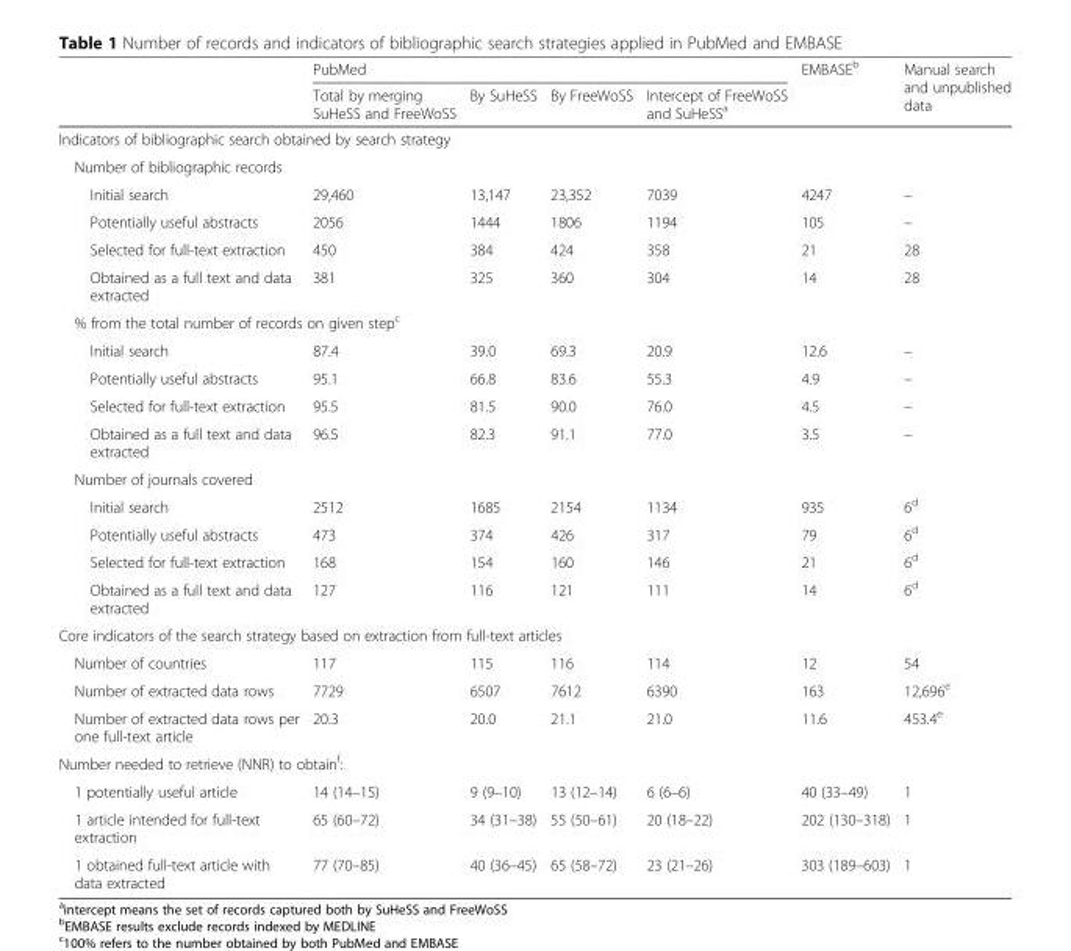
<table><thead><tr><td rowspan="2"></td><td colspan="4">PubMed</td><td rowspan="2">EMBASE<sup>b</sup></td><td rowspan="2">Manual search and unpublished data</td></tr><tr><td>Total by merging SuHeSS and FreeWoSS</td><td>By SuHeSS</td><td>By FreeWoSS</td><td>Intercept of FreeWoSS and SuHeSS<sup>a</sup></td></tr></thead><tbody><tr><td colspan="7">Indicators of bibliographic search obtained by search strategy</td></tr><tr><td colspan="7">Number of bibliographic records</td></tr><tr><td>Initial search</td><td>29,460</td><td>13,147</td><td>23,352</td><td>7039</td><td>4247</td><td>–</td></tr><tr><td>Potentially useful abstracts</td><td>2056</td><td>1444</td><td>1806</td><td>1194</td><td>105</td><td>–</td></tr><tr><td>Selected for full-text extraction</td><td>450</td><td>384</td><td>424</td><td>358</td><td>21</td><td>28</td></tr><tr><td>Obtained as a full text and data extracted</td><td>381</td><td>325</td><td>360</td><td>304</td><td>14</td><td>28</td></tr><tr><td colspan="7">% from the total number of records on given step<sup>c</sup></td></tr><tr><td>Initial search</td><td>87.4</td><td>39.0</td><td>69.3</td><td>20.9</td><td>12.6</td><td>–</td></tr><tr><td>Potentially useful abstracts</td><td>95.1</td><td>66.8</td><td>83.6</td><td>55.3</td><td>4.9</td><td>–</td></tr><tr><td>Selected for full-text extraction</td><td>95.5</td><td>81.5</td><td>90.0</td><td>76.0</td><td>4.5</td><td>–</td></tr><tr><td>Obtained as a full text and data extracted</td><td>96.5</td><td>82.3</td><td>91.1</td><td>77.0</td><td>3.5</td><td>–</td></tr><tr><td colspan="7">Number of journals covered</td></tr><tr><td>Initial search</td><td>2512</td><td>1685</td><td>2154</td><td>1134</td><td>935</td><td>6<sup>d</sup></td></tr><tr><td>Potentially useful abstracts</td><td>473</td><td>374</td><td>426</td><td>317</td><td>79</td><td>6<sup>d</sup></td></tr><tr><td>Selected for full-text extraction</td><td>168</td><td>154</td><td>160</td><td>146</td><td>21</td><td>6<sup>d</sup></td></tr><tr><td>Obtained as a full text and data extracted</td><td>127</td><td>116</td><td>121</td><td>111</td><td>14</td><td>6<sup>d</sup></td></tr><tr><td colspan="7">Core indicators of the search strategy based on extraction from full-text articles</td></tr><tr><td>Number of countries</td><td>117</td><td>115</td><td>116</td><td>114</td><td>12</td><td>54</td></tr><tr><td>Number of extracted data rows</td><td>7729</td><td>6507</td><td>7612</td><td>6390</td><td>163</td><td>12,696<sup>e</sup></td></tr><tr><td>Number of extracted data rows per one full-text article</td><td>20.3</td><td>20.0</td><td>21.1</td><td>21.0</td><td>11.6</td><td>453.4<sup>e</sup></td></tr><tr><td colspan="7">Number needed to retrieve (NNR) to obtain<sup>f</sup>:</td></tr><tr><td>1 potentially useful article</td><td>14 (14–15)</td><td>9 (9–10)</td><td>13 (12–14)</td><td>6 (6–6)</td><td>40 (33–49)</td><td>1</td></tr><tr><td>1 article intended for full-text extraction</td><td>65 (60–72)</td><td>34 (31–38)</td><td>55 (50–61)</td><td>20 (18–22)</td><td>202 (130–318)</td><td>1</td></tr><tr><td>1 obtained full-text article with data extracted</td><td>77 (70–85)</td><td>40 (36–45)</td><td>65 (58–72)</td><td>23 (21–26)</td><td>303 (189–603)</td><td>1</td></tr></tbody></table>